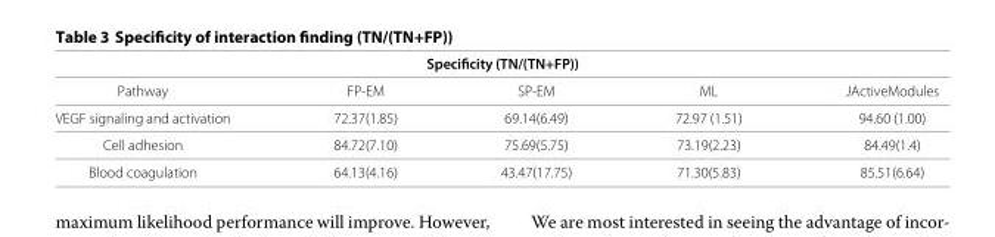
<table><thead><tr><td colspan="5">Specificity (TN/(TN+FP))</td></tr><tr><td>Pathway</td><td>FP-EM</td><td>SP-EM</td><td>ML</td><td>JActiveModules</td></tr></thead><tbody><tr><td>VEGF signaling and activation</td><td>72.37(1.85)</td><td>69.14(6.49)</td><td>72.97 (1.51)</td><td>94.60 (1.00)</td></tr><tr><td>Cell adhesion</td><td>84.72(7.10)</td><td>75.69(5.75)</td><td>73.19(2.23)</td><td>84.49(1.4)</td></tr><tr><td>Blood coagulation</td><td>64.13(4.16)</td><td>43.47(17.75)</td><td>71.30(5.83)</td><td>85.51(6.64)</td></tr></tbody></table>